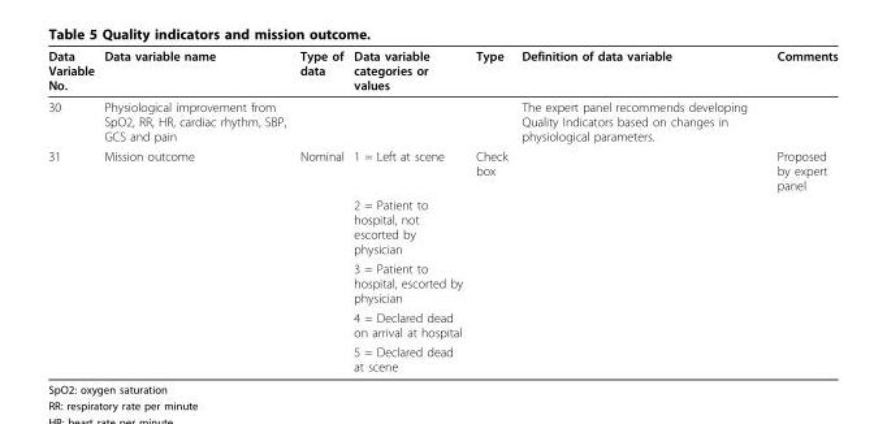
<table><thead><tr><td>Data Variable No.</td><td>Data variable name</td><td>Type of data</td><td>Data variable categories or values</td><td>Type</td><td>Definition of data variable</td><td>Comments</td></tr></thead><tbody><tr><td>30</td><td>Physiological improvement from SpO2, RR, HR, cardiac rhythm, SBP, GCS and pain</td><td></td><td></td><td></td><td>The expert panel recommends developing Quality Indicators based on changes in physiological parameters.</td><td></td></tr><tr><td rowspan="5">31</td><td>Mission outcome</td><td>Nominal</td><td>1 = Left at scene</td><td>Check box</td><td></td><td>Proposed by expert panel</td></tr><tr><td></td><td></td><td>2 = Patient to hospital, not escorted by physician</td><td></td><td></td><td></td></tr><tr><td></td><td></td><td>3 = Patient to hospital, escorted by physician</td><td></td><td></td><td></td></tr><tr><td></td><td></td><td>4 = Declared dead on arrival at hospital</td><td></td><td></td><td></td></tr><tr><td></td><td></td><td>5 = Declared dead at scene</td><td></td><td></td><td></td></tr></tbody></table>